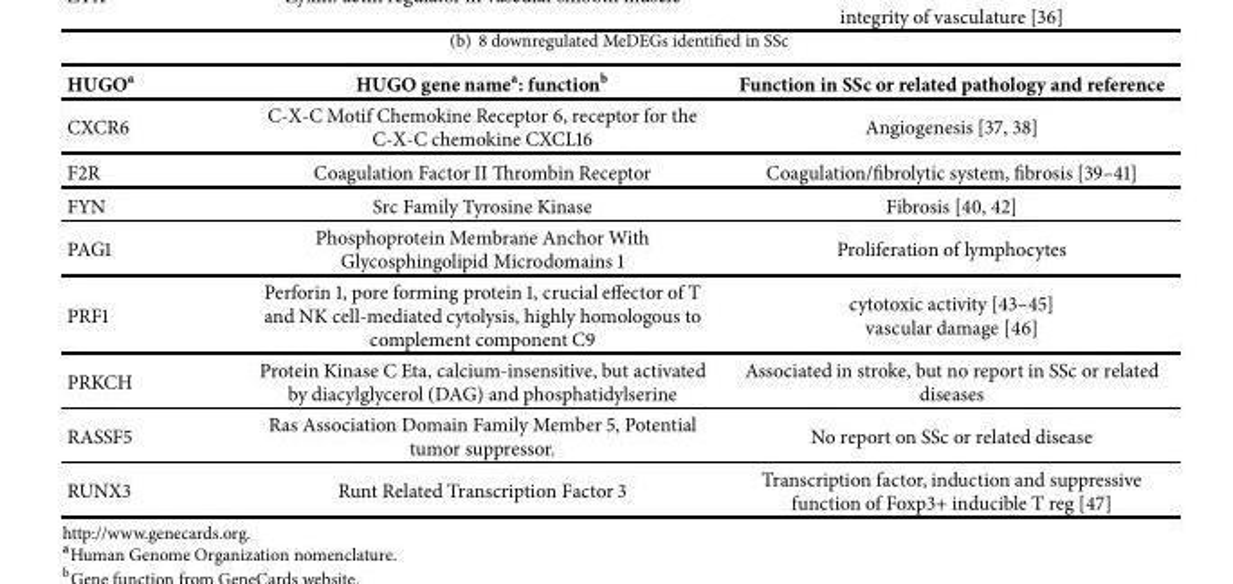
<table><thead><tr><td>HUGO<sup>a</sup></td><td>HUGO gene name<sup>a</sup>: function<sup>b</sup></td><td>Function in SSc or related pathology and reference</td></tr></thead><tbody><tr><td>CXCR6</td><td>C-X-C Motif Chemokine Receptor 6, receptor for the C-X-C chemokine CXCL16</td><td>Angiogenesis [37, 38]</td></tr><tr><td>F2R</td><td>Coagulation Factor II Thrombin Receptor</td><td>Coagulation/fibrolytic system, fibrosis [39–41]</td></tr><tr><td>FYN</td><td>Src Family Tyrosine Kinase</td><td>Fibrosis [40, 42]</td></tr><tr><td>PAG1</td><td>Phosphoprotein Membrane Anchor With Glycosphingolipid Microdomains 1</td><td>Proliferation of lymphocytes</td></tr><tr><td>PRF1</td><td>Perforin 1, pore forming protein 1, crucial effector of T and NK cell-mediated cytolysis, highly homologous to complement component C9</td><td>cytotoxic activity [43–45] vascular damage [46]</td></tr><tr><td>PRKCH</td><td>Protein Kinase C Eta, calcium-insensitive, but activated by diacylglycerol (DAG) and phosphatidylserine</td><td>Associated in stroke, but no report in SSc or related diseases</td></tr><tr><td>RASSF5</td><td>Ras Association Domain Family Member 5, Potential tumor suppressor.</td><td>No report on SSc or related disease</td></tr><tr><td>RUNX3</td><td>Runt Related Transcription Factor 3</td><td>Transcription factor, induction and suppressive function of Foxp3+ inducible T reg [47]</td></tr></tbody></table>